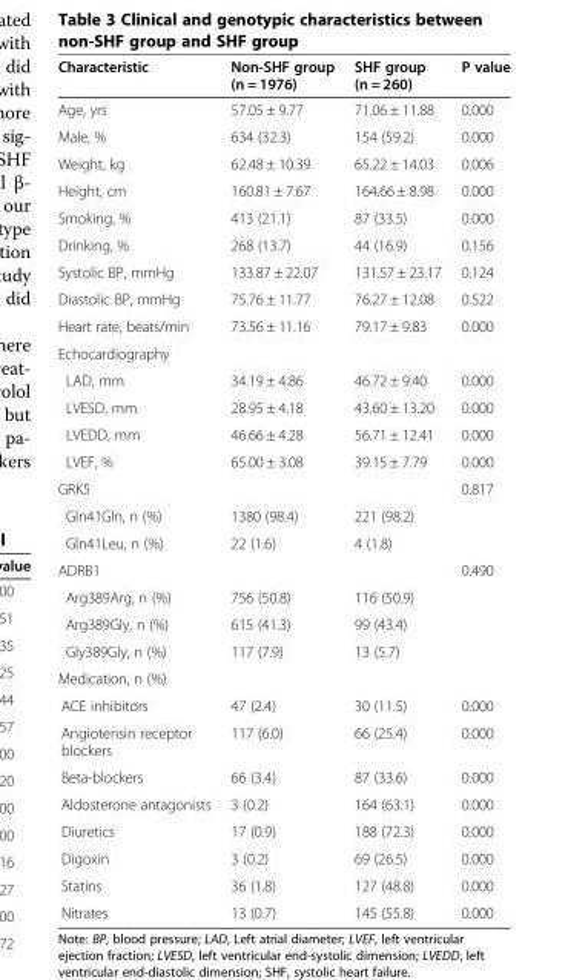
<table><thead><tr><td>Characteristic</td><td>Non-SHF group (n = 1976)</td><td>SHF group (n = 260)</td><td>P value</td></tr></thead><tbody><tr><td>Age, yrs</td><td>57.05 ± 9.77</td><td>71.06 ± 11.88</td><td>0.000</td></tr><tr><td>Male, %</td><td>634 (32.3)</td><td>154 (59.2)</td><td>0.000</td></tr><tr><td>Weight, kg</td><td>62.48 ± 10.39</td><td>65.22 ± 14.03</td><td>0.006</td></tr><tr><td>Height, cm</td><td>160.81 ± 7.67</td><td>164.66 ± 8.98</td><td>0.000</td></tr><tr><td>Smoking, %</td><td>413 (21.1)</td><td>87 (33.5)</td><td>0.000</td></tr><tr><td>Drinking, %</td><td>268 (13.7)</td><td>44 (16.9)</td><td>0.156</td></tr><tr><td>Systolic BP, mmHg</td><td>133.87 ± 22.07</td><td>131.57 ± 23.17</td><td>0.124</td></tr><tr><td>Diastolic BP, mmHg</td><td>75.76 ± 11.77</td><td>76.27 ± 12.08</td><td>0.522</td></tr><tr><td>Heart rate, beats/min</td><td>73.56 ± 11.16</td><td>79.17 ± 9.83</td><td>0.000</td></tr><tr><td colspan="4">Echocardiography</td></tr><tr><td>LAD, mm</td><td>34.19 ± 4.86</td><td>46.72 ± 9.40</td><td>0.000</td></tr><tr><td>LVESD, mm</td><td>28.95 ± 4.18</td><td>43.60 ± 13.20</td><td>0.000</td></tr><tr><td>LVEDD, mm</td><td>46.66 ± 4.28</td><td>56.71 ± 12.41</td><td>0.000</td></tr><tr><td>LVEF, %</td><td>65.00 ± 3.08</td><td>39.15 ± 7.79</td><td>0.000</td></tr><tr><td>GRK5</td><td></td><td></td><td>0.817</td></tr><tr><td>Gln41Gln, n (%)</td><td>1380 (98.4)</td><td>221 (98.2)</td><td></td></tr><tr><td>Gln41Leu, n (%)</td><td>22 (1.6)</td><td>4 (1.8)</td><td></td></tr><tr><td>ADRB1</td><td></td><td></td><td>0.490</td></tr><tr><td>Arg389Arg, n (%)</td><td>756 (50.8)</td><td>116 (50.9)</td><td></td></tr><tr><td>Arg389Gly, n (%)</td><td>615 (41.3)</td><td>99 (43.4)</td><td></td></tr><tr><td>Gly389Gly, n (%)</td><td>117 (7.9)</td><td>13 (5.7)</td><td></td></tr><tr><td colspan="4">Medication, n (%)</td></tr><tr><td>ACE inhibitors</td><td>47 (2.4)</td><td>30 (11.5)</td><td>0.000</td></tr><tr><td>Angiotensin receptor blockers</td><td>117 (6.0)</td><td>66 (25.4)</td><td>0.000</td></tr><tr><td>Beta-blockers</td><td>66 (3.4)</td><td>87 (33.6)</td><td>0.000</td></tr><tr><td>Aldosterone antagonists</td><td>3 (0.2)</td><td>164 (63.1)</td><td>0.000</td></tr><tr><td>Diuretics</td><td>17 (0.9)</td><td>188 (72.3)</td><td>0.000</td></tr><tr><td>Digoxin</td><td>3 (0.2)</td><td>69 (26.5)</td><td>0.000</td></tr><tr><td>Statins</td><td>36 (1.8)</td><td>127 (48.8)</td><td>0.000</td></tr><tr><td>Nitrates</td><td>13 (0.7)</td><td>145 (55.8)</td><td>0.000</td></tr></tbody></table>